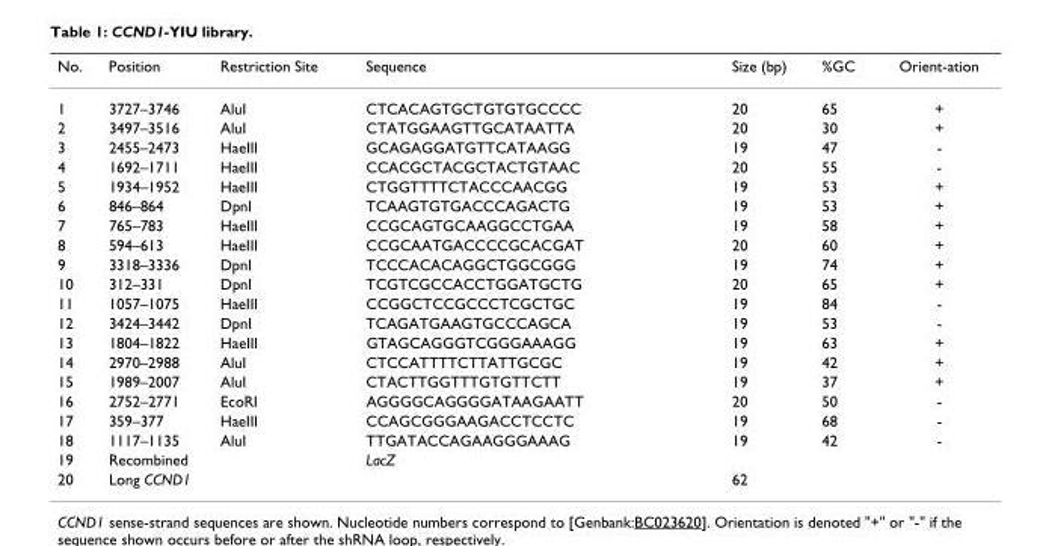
<table><thead><tr><td>No.</td><td>Position</td><td>Restriction Site</td><td>Sequence</td><td>Size (bp)</td><td>%GC</td><td>Orient-ation</td></tr></thead><tbody><tr><td>1</td><td>3727–3746</td><td>AluI</td><td>CTCACAGTGCTGTGTGCCCC</td><td>20</td><td>65</td><td>+</td></tr><tr><td>2</td><td>3497–3516</td><td>AluI</td><td>CTATGGAAGTTGCATAATTA</td><td>20</td><td>30</td><td>+</td></tr><tr><td>3</td><td>2455–2473</td><td>HaeIII</td><td>GCAGAGGATGTTCATAAGG</td><td>19</td><td>47</td><td>-</td></tr><tr><td>4</td><td>1692–1711</td><td>HaeIII</td><td>CCACGCTACGCTACTGTAAC</td><td>20</td><td>55</td><td>-</td></tr><tr><td>5</td><td>1934–1952</td><td>HaeIII</td><td>CTGGTTTTCTACCCAACGG</td><td>19</td><td>53</td><td>+</td></tr><tr><td>6</td><td>846–864</td><td>DpnI</td><td>TCAAGTGTGACCCAGACTG</td><td>19</td><td>53</td><td>+</td></tr><tr><td>7</td><td>765–783</td><td>HaeIII</td><td>CCGCAGTGCAAGGCCTGAA</td><td>19</td><td>58</td><td>+</td></tr><tr><td>8</td><td>594–613</td><td>HaeIII</td><td>CCGCAATGACCCCGCACGAT</td><td>20</td><td>60</td><td>+</td></tr><tr><td>9</td><td>3318–3336</td><td>DpnI</td><td>TCCCACACAGGCTGGCGGG</td><td>19</td><td>74</td><td>+</td></tr><tr><td>10</td><td>312–331</td><td>DpnI</td><td>TCGTCGCCACCTGGATGCTG</td><td>20</td><td>65</td><td>+</td></tr><tr><td>11</td><td>1057–1075</td><td>HaeIII</td><td>CCGGCTCCGCCCTCGCTGC</td><td>19</td><td>84</td><td>-</td></tr><tr><td>12</td><td>3424–3442</td><td>DpnI</td><td>TCAGATGAAGTGCCCAGCA</td><td>19</td><td>53</td><td>-</td></tr><tr><td>13</td><td>1804–1822</td><td>HaeIII</td><td>GTAGCAGGGTCGGGAAAGG</td><td>19</td><td>63</td><td>+</td></tr><tr><td>14</td><td>2970–2988</td><td>AluI</td><td>CTCCATTTTCTTATTGCGC</td><td>19</td><td>42</td><td>+</td></tr><tr><td>15</td><td>1989–2007</td><td>AluI</td><td>CTACTTGGTTTGTGTTCTT</td><td>19</td><td>37</td><td>+</td></tr><tr><td>16</td><td>2752–2771</td><td>EcoRI</td><td>AGGGGCAGGGGATAAGAATT</td><td>20</td><td>50</td><td>-</td></tr><tr><td>17</td><td>359–377</td><td>HaeIII</td><td>CCAGCGGGAAGACCTCCTC</td><td>19</td><td>68</td><td>-</td></tr><tr><td>18</td><td>1117–1135</td><td>AluI</td><td>TTGATACCAGAAGGGAAAG</td><td>19</td><td>42</td><td>-</td></tr><tr><td>19</td><td>Recombined</td><td></td><td>LacZ</td><td></td><td></td><td></td></tr><tr><td>20</td><td>Long CCND1</td><td></td><td></td><td>62</td><td></td><td></td></tr></tbody></table>